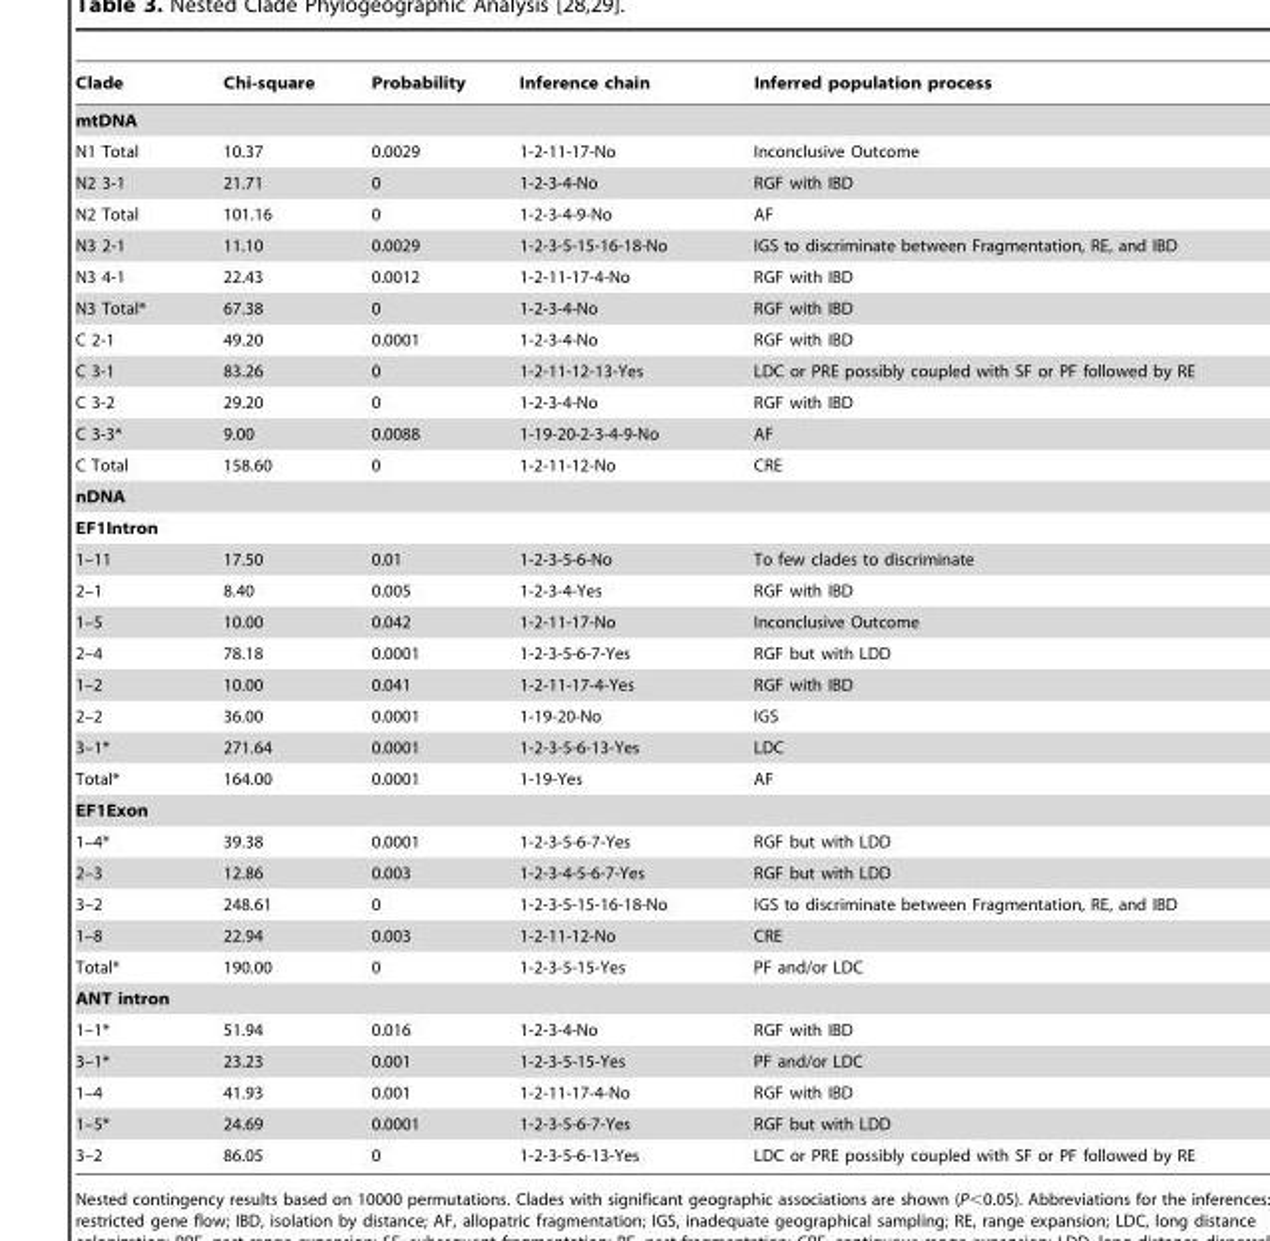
<table><thead><tr><td>Clade</td><td>Chi-square</td><td>Probability</td><td>Inference chain</td><td>Inferred population process</td></tr></thead><tbody><tr><td colspan="5">mtDNA</td></tr><tr><td>N1 Total</td><td>10.37</td><td>0.0029</td><td>1-2-11-17-No</td><td>Inconclusive Outcome</td></tr><tr><td>N2 3-1</td><td>21.71</td><td>0</td><td>1-2-3-4-No</td><td>RGF with IBD</td></tr><tr><td>N2 Total</td><td>101.16</td><td>0</td><td>1-2-3-4-9-No</td><td>AF</td></tr><tr><td>N3 2-1</td><td>11.10</td><td>0.0029</td><td>1-2-3-5-15-16-18-No</td><td>IGS to discriminate between Fragmentation, RE, and IBD</td></tr><tr><td>N3 4-1</td><td>22.43</td><td>0.0012</td><td>1-2-11-17-4-No</td><td>RGF with IBD</td></tr><tr><td>N3 Total*</td><td>67.38</td><td>0</td><td>1-2-3-4-No</td><td>RGF with IBD</td></tr><tr><td>C 2-1</td><td>49.20</td><td>0.0001</td><td>1-2-3-4-No</td><td>RGF with IBD</td></tr><tr><td>C 3-1</td><td>83.26</td><td>0</td><td>1-2-11-12-13-Yes</td><td>LDC or PRE possibly coupled with SF or PF followed by RE</td></tr><tr><td>C 3-2</td><td>29.20</td><td>0</td><td>1-2-3-4-No</td><td>RGF with IBD</td></tr><tr><td>C 3-3*</td><td>9.00</td><td>0.0088</td><td>1-19-20-2-3-4-9-No</td><td>AF</td></tr><tr><td>C Total</td><td>158.60</td><td>0</td><td>1-2-11-12-No</td><td>CRE</td></tr><tr><td colspan="5">nDNA</td></tr><tr><td colspan="5">EF1Intron</td></tr><tr><td>1–11</td><td>17.50</td><td>0.01</td><td>1-2-3-5-6-No</td><td>To few clades to discriminate</td></tr><tr><td>2–1</td><td>8.40</td><td>0.005</td><td>1-2-3-4-Yes</td><td>RGF with IBD</td></tr><tr><td>1–5</td><td>10.00</td><td>0.042</td><td>1-2-11-17-No</td><td>Inconclusive Outcome</td></tr><tr><td>2–4</td><td>78.18</td><td>0.0001</td><td>1-2-3-5-6-7-Yes</td><td>RGF but with LDD</td></tr><tr><td>1–2</td><td>10.00</td><td>0.041</td><td>1-2-11-17-4-Yes</td><td>RGF with IBD</td></tr><tr><td>2–2</td><td>36.00</td><td>0.0001</td><td>1-19-20-No</td><td>IGS</td></tr><tr><td>3–1*</td><td>271.64</td><td>0.0001</td><td>1-2-3-5-6-13-Yes</td><td>LDC</td></tr><tr><td>Total*</td><td>164.00</td><td>0.0001</td><td>1-19-Yes</td><td>AF</td></tr><tr><td colspan="5">EF1Exon</td></tr><tr><td>1–4*</td><td>39.38</td><td>0.0001</td><td>1-2-3-5-6-7-Yes</td><td>RGF but with LDD</td></tr><tr><td>2–3</td><td>12.86</td><td>0.003</td><td>1-2-3-4-5-6-7-Yes</td><td>RGF but with LDD</td></tr><tr><td>3–2</td><td>248.61</td><td>0</td><td>1-2-3-5-15-16-18-No</td><td>IGS to discriminate between Fragmentation, RE, and IBD</td></tr><tr><td>1–8</td><td>22.94</td><td>0.003</td><td>1-2-11-12-No</td><td>CRE</td></tr><tr><td>Total*</td><td>190.00</td><td>0</td><td>1-2-3-5-15-Yes</td><td>PF and/or LDC</td></tr><tr><td colspan="5">ANT intron</td></tr><tr><td>1–1*</td><td>51.94</td><td>0.016</td><td>1-2-3-4-No</td><td>RGF with IBD</td></tr><tr><td>3–1*</td><td>23.23</td><td>0.001</td><td>1-2-3-5-15-Yes</td><td>PF and/or LDC</td></tr><tr><td>1–4</td><td>41.93</td><td>0.001</td><td>1-2-11-17-4-No</td><td>RGF with IBD</td></tr><tr><td>1–5*</td><td>24.69</td><td>0.0001</td><td>1-2-3-5-6-7-Yes</td><td>RGF but with LDD</td></tr><tr><td>3–2</td><td>86.05</td><td>0</td><td>1-2-3-5-6-13-Yes</td><td>LDC or PRE possibly coupled with SF or PF followed by RE</td></tr></tbody></table>